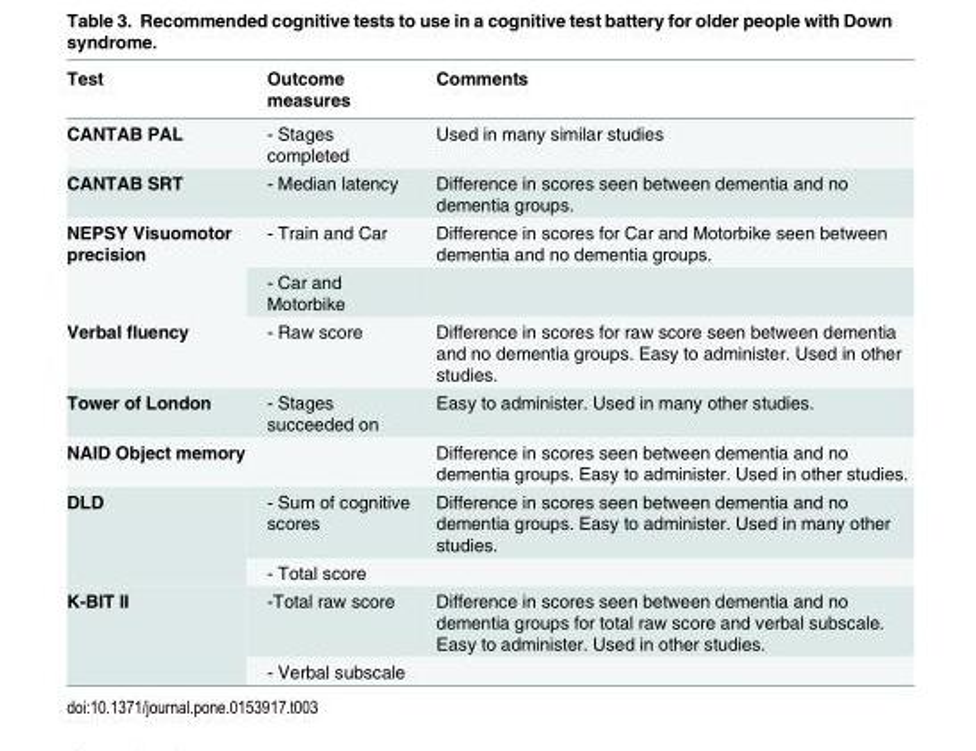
<table><thead><tr><td>Test</td><td>Outcome measures</td><td>Comments</td></tr></thead><tbody><tr><td>CANTAB PAL</td><td>- Stages completed</td><td>Used in many similar studies</td></tr><tr><td>CANTAB SRT</td><td>- Median latency</td><td>Difference in scores seen between dementia and no dementia groups.</td></tr><tr><td rowspan="2">NEPSY Visuomotor precision</td><td>- Train and Car</td><td>Difference in scores for Car and Motorbike seen between dementia and no dementia groups.</td></tr><tr><td>- Car and Motorbike</td><td></td></tr><tr><td>Verbal fluency</td><td>- Raw score</td><td>Difference in scores for raw score seen between dementia and no dementia groups. Easy to administer. Used in other studies.</td></tr><tr><td>Tower of London</td><td>- Stages succeeded on</td><td>Easy to administer. Used in many other studies.</td></tr><tr><td>NAID Object memory</td><td></td><td>Difference in scores seen between dementia and no dementia groups. Easy to administer. Used in other studies.</td></tr><tr><td rowspan="2">DLD</td><td>- Sum of cognitive scores</td><td>Difference in scores seen between dementia and no dementia groups. Easy to administer. Used in many other studies.</td></tr><tr><td>- Total score</td><td></td></tr><tr><td rowspan="2">K-BIT II</td><td>-Total raw score</td><td>Difference in scores seen between dementia and no dementia groups for total raw score and verbal subscale. Easy to administer. Used in other studies.</td></tr><tr><td>- Verbal subscale</td><td></td></tr></tbody></table>